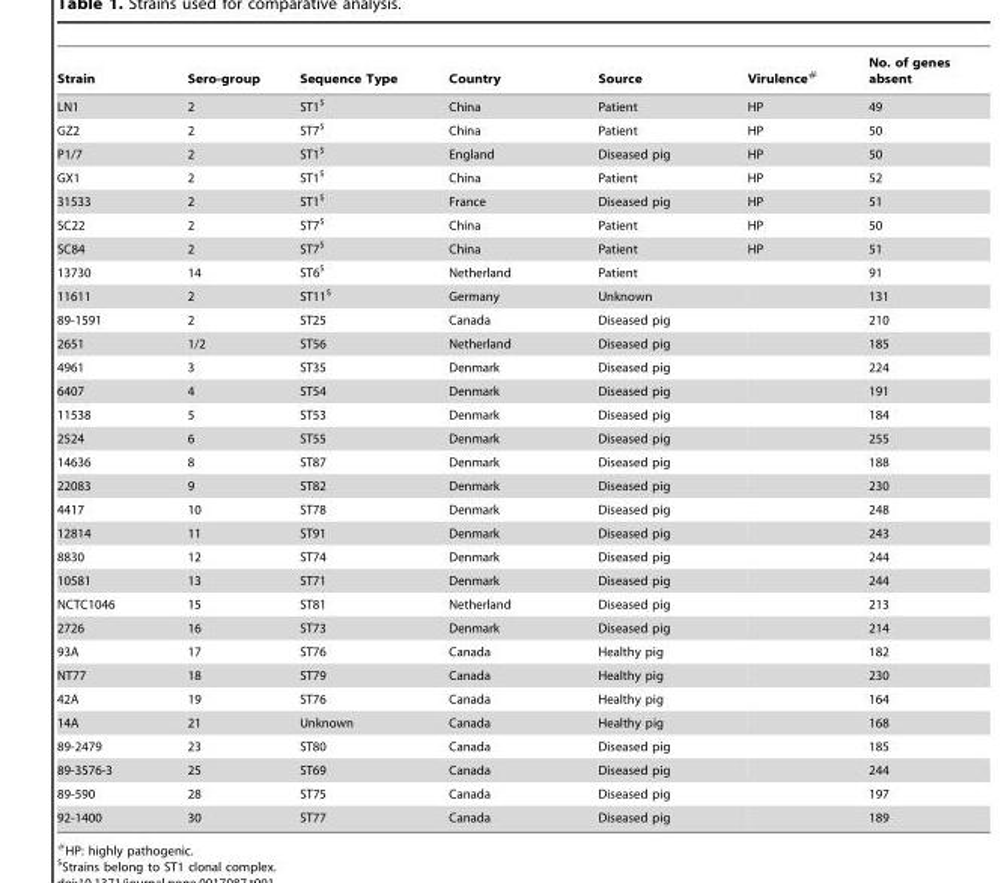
<table><thead><tr><td>Strain</td><td>Sero-group</td><td>Sequence Type</td><td>Country</td><td>Source</td><td>Virulence#</td><td>No. of genes absent</td></tr></thead><tbody><tr><td>LN1</td><td>2</td><td>ST1$</td><td>China</td><td>Patient</td><td>HP</td><td>49</td></tr><tr><td>GZ2</td><td>2</td><td>ST7$</td><td>China</td><td>Patient</td><td>HP</td><td>50</td></tr><tr><td>P1/7</td><td>2</td><td>ST1$</td><td>England</td><td>Diseased pig</td><td>HP</td><td>50</td></tr><tr><td>GX1</td><td>2</td><td>ST1$</td><td>China</td><td>Patient</td><td>HP</td><td>52</td></tr><tr><td>31533</td><td>2</td><td>ST1$</td><td>France</td><td>Diseased pig</td><td>HP</td><td>51</td></tr><tr><td>SC22</td><td>2</td><td>ST7$</td><td>China</td><td>Patient</td><td>HP</td><td>50</td></tr><tr><td>SC84</td><td>2</td><td>ST7$</td><td>China</td><td>Patient</td><td>HP</td><td>51</td></tr><tr><td>13730</td><td>14</td><td>ST6$</td><td>Netherland</td><td>Patient</td><td></td><td>91</td></tr><tr><td>11611</td><td>2</td><td>ST11$</td><td>Germany</td><td>Unknown</td><td></td><td>131</td></tr><tr><td>89-1591</td><td>2</td><td>ST25</td><td>Canada</td><td>Diseased pig</td><td></td><td>210</td></tr><tr><td>2651</td><td>1/2</td><td>ST56</td><td>Netherland</td><td>Diseased pig</td><td></td><td>185</td></tr><tr><td>4961</td><td>3</td><td>ST35</td><td>Denmark</td><td>Diseased pig</td><td></td><td>224</td></tr><tr><td>6407</td><td>4</td><td>ST54</td><td>Denmark</td><td>Diseased pig</td><td></td><td>191</td></tr><tr><td>11538</td><td>5</td><td>ST53</td><td>Denmark</td><td>Diseased pig</td><td></td><td>184</td></tr><tr><td>2524</td><td>6</td><td>ST55</td><td>Denmark</td><td>Diseased pig</td><td></td><td>255</td></tr><tr><td>14636</td><td>8</td><td>ST87</td><td>Denmark</td><td>Diseased pig</td><td></td><td>188</td></tr><tr><td>22083</td><td>9</td><td>ST82</td><td>Denmark</td><td>Diseased pig</td><td></td><td>230</td></tr><tr><td>4417</td><td>10</td><td>ST78</td><td>Denmark</td><td>Diseased pig</td><td></td><td>248</td></tr><tr><td>12814</td><td>11</td><td>ST91</td><td>Denmark</td><td>Diseased pig</td><td></td><td>243</td></tr><tr><td>8830</td><td>12</td><td>ST74</td><td>Denmark</td><td>Diseased pig</td><td></td><td>244</td></tr><tr><td>10581</td><td>13</td><td>ST71</td><td>Denmark</td><td>Diseased pig</td><td></td><td>244</td></tr><tr><td>NCTC1046</td><td>15</td><td>ST81</td><td>Netherland</td><td>Diseased pig</td><td></td><td>213</td></tr><tr><td>2726</td><td>16</td><td>ST73</td><td>Denmark</td><td>Diseased pig</td><td></td><td>214</td></tr><tr><td>93A</td><td>17</td><td>ST76</td><td>Canada</td><td>Healthy pig</td><td></td><td>182</td></tr><tr><td>NT77</td><td>18</td><td>ST79</td><td>Canada</td><td>Healthy pig</td><td></td><td>230</td></tr><tr><td>42A</td><td>19</td><td>ST76</td><td>Canada</td><td>Healthy pig</td><td></td><td>164</td></tr><tr><td>14A</td><td>21</td><td>Unknown</td><td>Canada</td><td>Healthy pig</td><td></td><td>168</td></tr><tr><td>89-2479</td><td>23</td><td>ST80</td><td>Canada</td><td>Diseased pig</td><td></td><td>185</td></tr><tr><td>89-3576-3</td><td>25</td><td>ST69</td><td>Canada</td><td>Diseased pig</td><td></td><td>244</td></tr><tr><td>89-590</td><td>28</td><td>ST75</td><td>Canada</td><td>Diseased pig</td><td></td><td>197</td></tr><tr><td>92-1400</td><td>30</td><td>ST77</td><td>Canada</td><td>Diseased pig</td><td></td><td>189</td></tr></tbody></table>